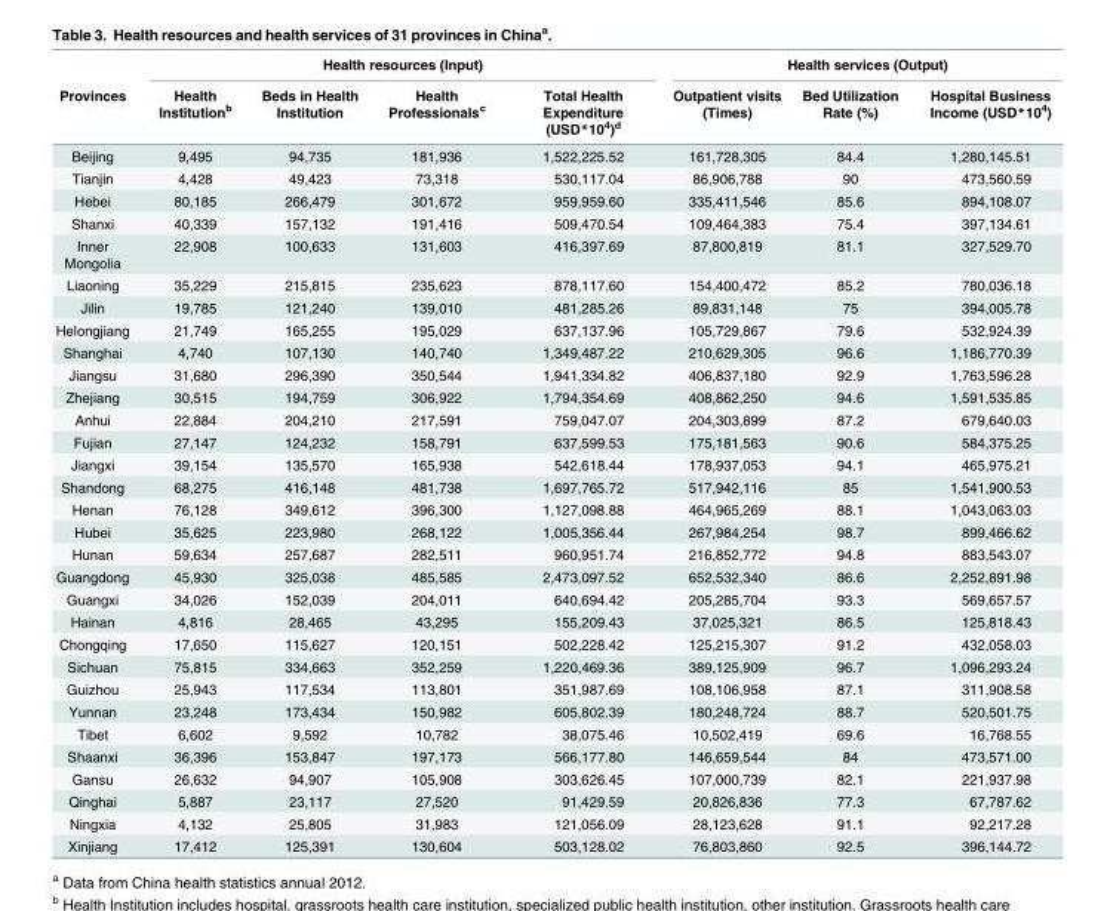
<table><thead><tr><td rowspan="2">Provinces</td><td colspan="4">Health resources (Input)</td><td colspan="3">Health services (Output)</td></tr><tr><td>Health Institution<sup>b</sup></td><td>Beds in Health Institution</td><td>Health Professionals<sup>c</sup></td><td>Total Health Expenditure (USD*10<sup>4</sup>)<sup>d</sup></td><td>Outpatient visits (Times)</td><td>Bed Utilization Rate (%)</td><td>Hospital Business Income (USD*10<sup>4</sup>)</td></tr></thead><tbody><tr><td>Beijing</td><td>9,495</td><td>94,735</td><td>181,936</td><td>1,522,225.52</td><td>161,728,305</td><td>84.4</td><td>1,280,145.51</td></tr><tr><td>Tianjin</td><td>4,428</td><td>49,423</td><td>73,318</td><td>530,117.04</td><td>86,906,788</td><td>90</td><td>473,560.59</td></tr><tr><td>Hebei</td><td>80,185</td><td>266,479</td><td>301,672</td><td>959,959.60</td><td>335,411,546</td><td>85.6</td><td>894,108.07</td></tr><tr><td>Shanxi</td><td>40,339</td><td>157,132</td><td>191,416</td><td>509,470.54</td><td>109,464,383</td><td>75.4</td><td>397,134.61</td></tr><tr><td>Inner Mongolia</td><td>22,908</td><td>100,633</td><td>131,603</td><td>416,397.69</td><td>87,800,819</td><td>81.1</td><td>327,529.70</td></tr><tr><td>Liaoning</td><td>35,229</td><td>215,815</td><td>235,623</td><td>878,117.60</td><td>154,400,472</td><td>85.2</td><td>780,036.18</td></tr><tr><td>Jilin</td><td>19,785</td><td>121,240</td><td>139,010</td><td>481,285.26</td><td>89,831,148</td><td>75</td><td>394,005.78</td></tr><tr><td>Helongjiang</td><td>21,749</td><td>165,255</td><td>195,029</td><td>637,137.96</td><td>105,729,867</td><td>79.6</td><td>532,924.39</td></tr><tr><td>Shanghai</td><td>4,740</td><td>107,130</td><td>140,740</td><td>1,349,487.22</td><td>210,629,305</td><td>96.6</td><td>1,186,770.39</td></tr><tr><td>Jiangsu</td><td>31,680</td><td>296,390</td><td>350,544</td><td>1,941,334.82</td><td>406,837,180</td><td>92.9</td><td>1,763,596.28</td></tr><tr><td>Zhejiang</td><td>30,515</td><td>194,759</td><td>306,922</td><td>1,794,354.69</td><td>408,862,250</td><td>94.6</td><td>1,591,535.85</td></tr><tr><td>Anhui</td><td>22,884</td><td>204,210</td><td>217,591</td><td>759,047.07</td><td>204,303,899</td><td>87.2</td><td>679,640.03</td></tr><tr><td>Fujian</td><td>27,147</td><td>124,232</td><td>158,791</td><td>637,599.53</td><td>175,181,563</td><td>90.6</td><td>584,375.25</td></tr><tr><td>Jiangxi</td><td>39,154</td><td>135,570</td><td>165,938</td><td>542,618.44</td><td>178,937,053</td><td>94.1</td><td>465,975.21</td></tr><tr><td>Shandong</td><td>68,275</td><td>416,148</td><td>481,738</td><td>1,697,765.72</td><td>517,942,116</td><td>85</td><td>1,541,900.53</td></tr><tr><td>Henan</td><td>76,128</td><td>349,612</td><td>396,300</td><td>1,127,098.88</td><td>464,965,269</td><td>88.1</td><td>1,043,063.03</td></tr><tr><td>Hubei</td><td>35,625</td><td>223,980</td><td>268,122</td><td>1,005,356.44</td><td>267,984,254</td><td>98.7</td><td>899,466.62</td></tr><tr><td>Hunan</td><td>59,634</td><td>257,687</td><td>282,511</td><td>960,951.74</td><td>216,852,772</td><td>94.8</td><td>883,543.07</td></tr><tr><td>Guangdong</td><td>45,930</td><td>325,038</td><td>485,585</td><td>2,473,097.52</td><td>652,532,340</td><td>86.6</td><td>2,252,891.98</td></tr><tr><td>Guangxi</td><td>34,026</td><td>152,039</td><td>204,011</td><td>640,694.42</td><td>205,285,704</td><td>93.3</td><td>569,657.57</td></tr><tr><td>Hainan</td><td>4,816</td><td>28,465</td><td>43,295</td><td>155,209.43</td><td>37,025,321</td><td>86.5</td><td>125,818.43</td></tr><tr><td>Chongqing</td><td>17,650</td><td>115,627</td><td>120,151</td><td>502,228.42</td><td>125,215,307</td><td>91.2</td><td>432,058.03</td></tr><tr><td>Sichuan</td><td>75,815</td><td>334,663</td><td>352,259</td><td>1,220,469.36</td><td>389,125,909</td><td>96.7</td><td>1,096,293.24</td></tr><tr><td>Guizhou</td><td>25,943</td><td>117,534</td><td>113,801</td><td>351,987.69</td><td>108,106,958</td><td>87.1</td><td>311,908.58</td></tr><tr><td>Yunnan</td><td>23,248</td><td>173,434</td><td>150,982</td><td>605,802.39</td><td>180,248,724</td><td>88.7</td><td>520,501.75</td></tr><tr><td>Tibet</td><td>6,602</td><td>9,592</td><td>10,782</td><td>38,075.46</td><td>10,502,419</td><td>69.6</td><td>16,768.55</td></tr><tr><td>Shaanxi</td><td>36,396</td><td>153,847</td><td>197,173</td><td>566,177.80</td><td>146,659,544</td><td>84</td><td>473,571.00</td></tr><tr><td>Gansu</td><td>26,632</td><td>94,907</td><td>105,908</td><td>303,626.45</td><td>107,000,739</td><td>82.1</td><td>221,937.98</td></tr><tr><td>Qinghai</td><td>5,887</td><td>23,117</td><td>27,520</td><td>91,429.59</td><td>20,826,836</td><td>77.3</td><td>67,787.62</td></tr><tr><td>Ningxia</td><td>4,132</td><td>25,805</td><td>31,983</td><td>121,056.09</td><td>28,123,628</td><td>91.1</td><td>92,217.28</td></tr><tr><td>Xinjiang</td><td>17,412</td><td>125,391</td><td>130,604</td><td>503,128.02</td><td>76,803,860</td><td>92.5</td><td>396,144.72</td></tr></tbody></table>